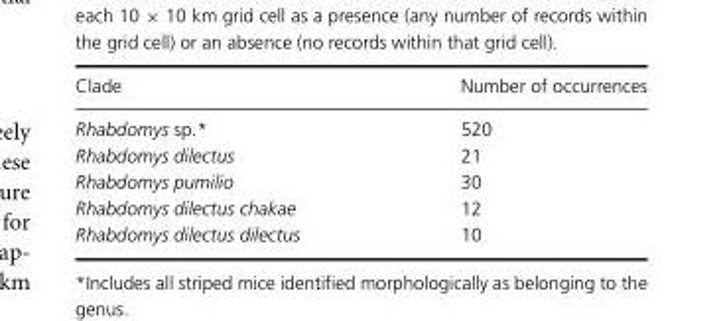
<table><thead><tr><td>Clade</td><td>Number of occurrences</td></tr></thead><tbody><tr><td>Rhabdomys sp.*</td><td>520</td></tr><tr><td>Rhabdomys dilectus</td><td>21</td></tr><tr><td>Rhabdomys pumilio</td><td>30</td></tr><tr><td>Rhabdomys dilectus chakae</td><td>12</td></tr><tr><td>Rhabdomys dilectus dilectus</td><td>10</td></tr></tbody></table>